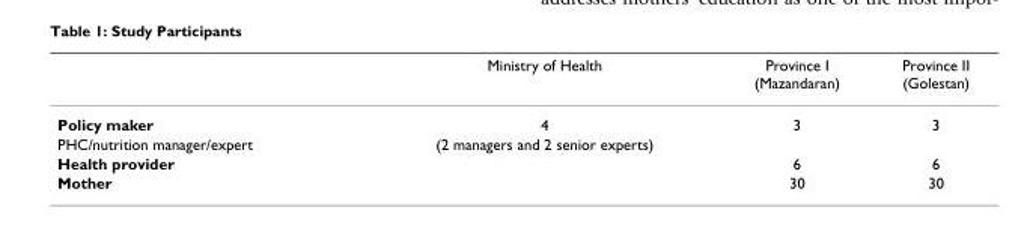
<table><thead><tr><td></td><td>Ministry of Health</td><td>Province I (Mazandaran)</td><td>Province II (Golestan)</td></tr></thead><tbody><tr><td>Policy maker</td><td>4</td><td>3</td><td>3</td></tr><tr><td>PHC/nutrition manager/expert</td><td>(2 managers and 2 senior experts)</td><td></td><td></td></tr><tr><td>Health provider</td><td></td><td>6</td><td>6</td></tr><tr><td>Mother</td><td></td><td>30</td><td>30</td></tr></tbody></table>